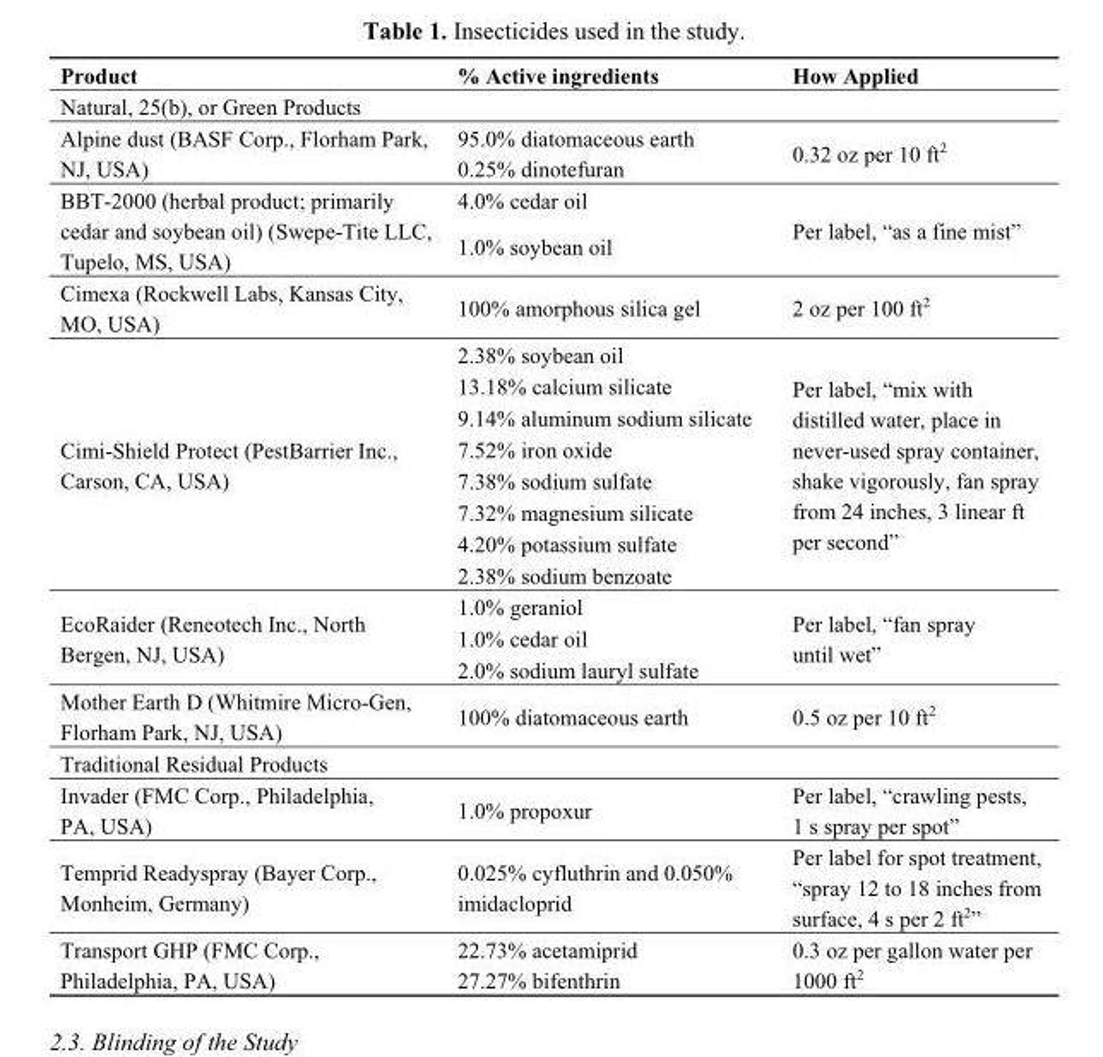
<table><thead><tr><td>Product</td><td>% Active ingredients</td><td>How Applied</td></tr></thead><tbody><tr><td colspan="3">Natural, 25(b), or Green Products</td></tr><tr><td rowspan="2">Alpine dust (BASF Corp., Florham Park, NJ, USA)</td><td>95.0% diatomaceous earth</td><td rowspan="2">0.32 oz per 10 ft<sup>2</sup></td></tr><tr><td>0.25% dinotefuran</td></tr><tr><td rowspan="2">BBT-2000 (herbal product; primarily cedar and soybean oil) (Swepe-Tite LLC, Tupelo, MS, USA)</td><td>4.0% cedar oil</td><td rowspan="2">Per label, “as a fine mist”</td></tr><tr><td>1.0% soybean oil</td></tr><tr><td>Cimexa (Rockwell Labs, Kansas City, MO, USA)</td><td>100% amorphous silica gel</td><td>2 oz per 100 ft<sup>2</sup></td></tr><tr><td rowspan="8">Cimi-Shield Protect (PestBarrier Inc., Carson, CA, USA)</td><td>2.38% soybean oil</td><td rowspan="8">Per label, “mix with distilled water, place in never-used spray container, shake vigorously, fan spray from 24 inches, 3 linear ft per second”</td></tr><tr><td>13.18% calcium silicate</td></tr><tr><td>9.14% aluminum sodium silicate</td></tr><tr><td>7.52% iron oxide</td></tr><tr><td>7.38% sodium sulfate</td></tr><tr><td>7.32% magnesium silicate</td></tr><tr><td>4.20% potassium sulfate</td></tr><tr><td>2.38% sodium benzoate</td></tr><tr><td rowspan="3">EcoRaider (Reneotech Inc., North Bergen, NJ, USA)</td><td>1.0% geraniol</td><td rowspan="3">Per label, “fan spray until wet”</td></tr><tr><td>1.0% cedar oil</td></tr><tr><td>2.0% sodium lauryl sulfate</td></tr><tr><td>Mother Earth D (Whitmire Micro-Gen, Florham Park, NJ, USA)</td><td>100% diatomaceous earth</td><td>0.5 oz per 10 ft<sup>2</sup></td></tr><tr><td colspan="3">Traditional Residual Products</td></tr><tr><td>Invader (FMC Corp., Philadelphia, PA, USA)</td><td>1.0% propoxur</td><td>Per label, “crawling pests, 1 s spray per spot”</td></tr><tr><td>Temprid Readyspray (Bayer Corp., Monheim, Germany)</td><td>0.025% cyfluthrin and 0.050% imidacloprid</td><td>Per label for spot treatment, “spray 12 to 18 inches from surface, 4 s per 2 ft<sup>2</sup>”</td></tr><tr><td rowspan="2">Transport GHP (FMC Corp., Philadelphia, PA, USA)</td><td>22.73% acetamiprid</td><td rowspan="2">0.3 oz per gallon water per 1000 ft<sup>2</sup></td></tr><tr><td>27.27% bifenthrin</td></tr></tbody></table>